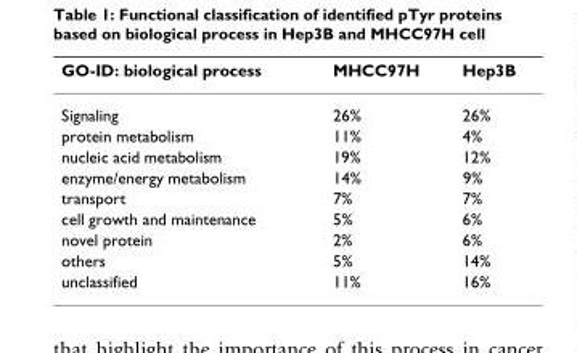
<table><thead><tr><td>GO-ID: biological process</td><td>MHCC97H</td><td>Hep3B</td></tr></thead><tbody><tr><td>Signaling</td><td>26%</td><td>26%</td></tr><tr><td>protein metabolism</td><td>11%</td><td>4%</td></tr><tr><td>nucleic acid metabolism</td><td>19%</td><td>12%</td></tr><tr><td>enzyme/energy metabolism</td><td>14%</td><td>9%</td></tr><tr><td>transport</td><td>7%</td><td>7%</td></tr><tr><td>cell growth and maintenance</td><td>5%</td><td>6%</td></tr><tr><td>novel protein</td><td>2%</td><td>6%</td></tr><tr><td>others</td><td>5%</td><td>14%</td></tr><tr><td>unclassified</td><td>11%</td><td>16%</td></tr></tbody></table>